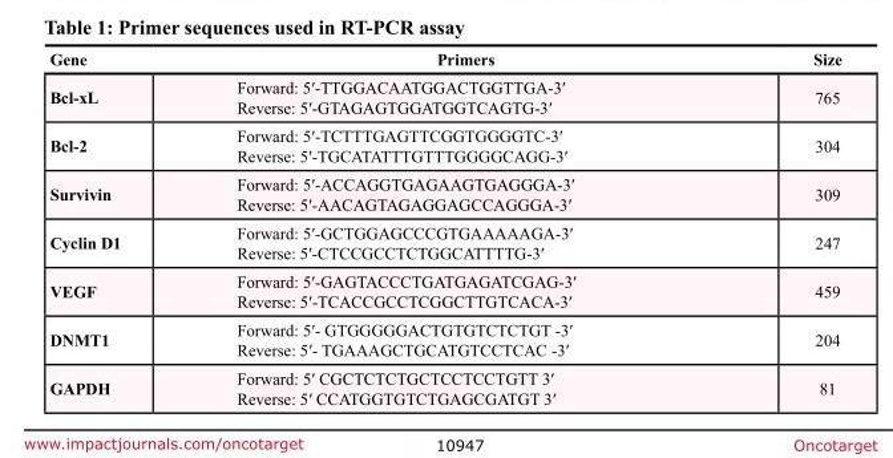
<table><thead><tr><td>Gene</td><td>Primers</td><td>Size</td></tr></thead><tbody><tr><td>Bcl-xL</td><td>Forward: 5′-TTGGACAATGGACTGGTTGA-3′ Reverse: 5′-GTAGAGTGGATGGTCAGTG-3′</td><td>765</td></tr><tr><td>Bcl-2</td><td>Forward: 5′-TCTTTGAGTTCGGTGGGGTC-3′ Reverse: 5′-TGCATATTTGTTTGGGGCAGG-3′</td><td>304</td></tr><tr><td>Survivin</td><td>Forward: 5′-ACCAGGTGAGAAGTGAGGGA-3′ Reverse: 5′-AACAGTAGAGGAGCCAGGGA-3′</td><td>309</td></tr><tr><td>Cyclin D1</td><td>Forward: 5′-GCTGGAGCCCGTGAAAAAGA-3′ Reverse: 5′-CTCCGCCTCTGGCATTTTG-3′</td><td>247</td></tr><tr><td>VEGF</td><td>Forward: 5′-GAGTACCCTGATGAGATCGAG-3′ Reverse: 5′-TCACCGCCTCGGCTTGTCACA-3′</td><td>459</td></tr><tr><td>DNMT1</td><td>Forward: 5′- GTGGGGGACTGTGTCTCTGT -3′ Reverse: 5′- TGAAAGCTGCATGTCCTCAC -3′</td><td>204</td></tr><tr><td>GAPDH</td><td>Forward: 5′ CGCTCTCTGCTCCTCCTGTT 3′ Reverse: 5′ CCATGGTGTCTGAGCGATGT 3′</td><td>81</td></tr></tbody></table>